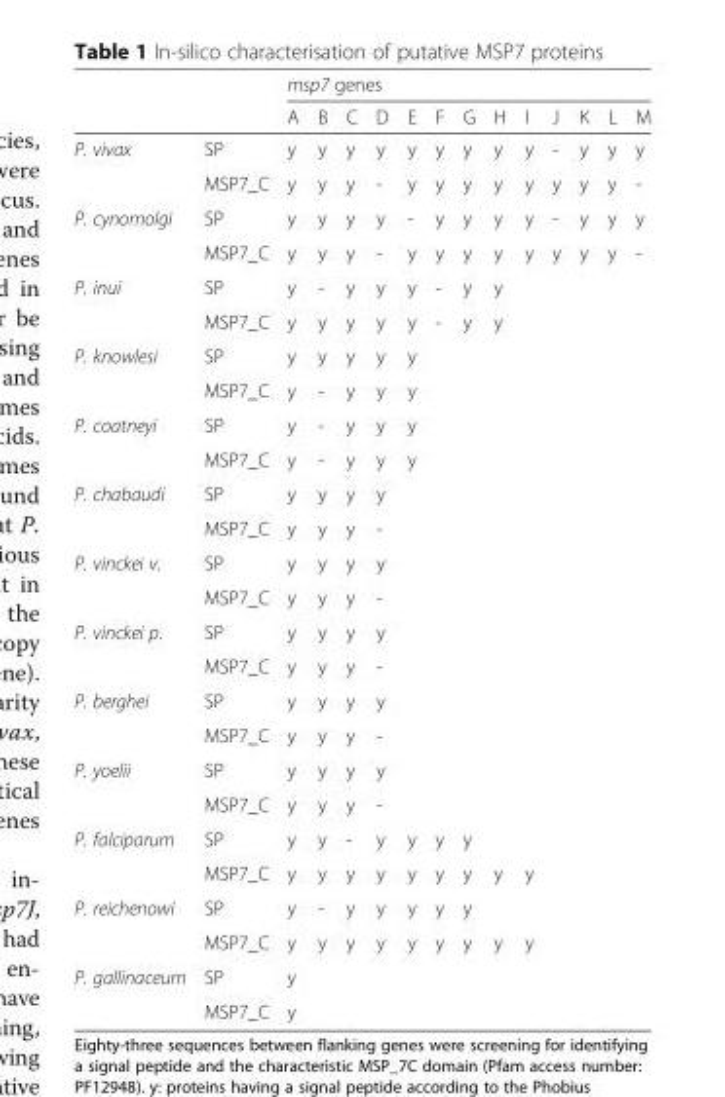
<table><thead><tr><td rowspan="2"></td><td rowspan="2"></td><td colspan="13">msp7 genes</td></tr><tr><td>A</td><td>B</td><td>C</td><td>D</td><td>E</td><td>F</td><td>G</td><td>H</td><td>I</td><td>J</td><td>K</td><td>L</td><td>M</td></tr></thead><tbody><tr><td rowspan="2">P. vivax</td><td>SP</td><td>y</td><td>y</td><td>y</td><td>y</td><td>y</td><td>y</td><td>y</td><td>y</td><td>y</td><td>-</td><td>y</td><td>y</td><td>y</td></tr><tr><td>MSP7_C</td><td>y</td><td>y</td><td>y</td><td>-</td><td>y</td><td>y</td><td>y</td><td>y</td><td>y</td><td>y</td><td>y</td><td>y</td><td>-</td></tr><tr><td rowspan="2">P. cynomolgi</td><td>SP</td><td>y</td><td>y</td><td>y</td><td>y</td><td>-</td><td>y</td><td>y</td><td>y</td><td>y</td><td>-</td><td>y</td><td>y</td><td>y</td></tr><tr><td>MSP7_C</td><td>y</td><td>y</td><td>y</td><td>-</td><td>y</td><td>y</td><td>y</td><td>y</td><td>y</td><td>y</td><td>y</td><td>y</td><td>-</td></tr><tr><td rowspan="2">P. inui</td><td>SP</td><td>y</td><td>-</td><td>y</td><td>y</td><td>y</td><td>-</td><td>y</td><td>y</td><td></td><td></td><td></td><td></td><td></td></tr><tr><td>MSP7_C</td><td>y</td><td>y</td><td>y</td><td>y</td><td>y</td><td>-</td><td>y</td><td>y</td><td></td><td></td><td></td><td></td><td></td></tr><tr><td rowspan="2">P. knowlesi</td><td>SP</td><td>y</td><td>y</td><td>y</td><td>y</td><td>y</td><td></td><td></td><td></td><td></td><td></td><td></td><td></td><td></td></tr><tr><td>MSP7_C</td><td>y</td><td>-</td><td>y</td><td>y</td><td>y</td><td></td><td></td><td></td><td></td><td></td><td></td><td></td><td></td></tr><tr><td rowspan="2">P. coatneyi</td><td>SP</td><td>y</td><td>-</td><td>y</td><td>y</td><td>y</td><td></td><td></td><td></td><td></td><td></td><td></td><td></td><td></td></tr><tr><td>MSP7_C</td><td>y</td><td>-</td><td>y</td><td>y</td><td>y</td><td></td><td></td><td></td><td></td><td></td><td></td><td></td><td></td></tr><tr><td rowspan="2">P. chabaudi</td><td>SP</td><td>y</td><td>y</td><td>y</td><td>y</td><td></td><td></td><td></td><td></td><td></td><td></td><td></td><td></td><td></td></tr><tr><td>MSP7_C</td><td>y</td><td>y</td><td>y</td><td>-</td><td></td><td></td><td></td><td></td><td></td><td></td><td></td><td></td><td></td></tr><tr><td rowspan="2">P. vinckei v.</td><td>SP</td><td>y</td><td>y</td><td>y</td><td>y</td><td></td><td></td><td></td><td></td><td></td><td></td><td></td><td></td><td></td></tr><tr><td>MSP7_C</td><td>y</td><td>y</td><td>y</td><td>-</td><td></td><td></td><td></td><td></td><td></td><td></td><td></td><td></td><td></td></tr><tr><td rowspan="2">P. vinckei p.</td><td>SP</td><td>y</td><td>y</td><td>y</td><td>y</td><td></td><td></td><td></td><td></td><td></td><td></td><td></td><td></td><td></td></tr><tr><td>MSP7_C</td><td>y</td><td>y</td><td>y</td><td>-</td><td></td><td></td><td></td><td></td><td></td><td></td><td></td><td></td><td></td></tr><tr><td rowspan="2">P. berghei</td><td>SP</td><td>y</td><td>y</td><td>y</td><td>y</td><td></td><td></td><td></td><td></td><td></td><td></td><td></td><td></td><td></td></tr><tr><td>MSP7_C</td><td>y</td><td>y</td><td>y</td><td>-</td><td></td><td></td><td></td><td></td><td></td><td></td><td></td><td></td><td></td></tr><tr><td rowspan="2">P. yoelii</td><td>SP</td><td>y</td><td>y</td><td>y</td><td>y</td><td></td><td></td><td></td><td></td><td></td><td></td><td></td><td></td><td></td></tr><tr><td>MSP7_C</td><td>y</td><td>y</td><td>y</td><td>-</td><td></td><td></td><td></td><td></td><td></td><td></td><td></td><td></td><td></td></tr><tr><td rowspan="2">P. falciparum</td><td>SP</td><td>y</td><td>y</td><td>-</td><td>y</td><td>y</td><td>y</td><td>y</td><td></td><td></td><td></td><td></td><td></td><td></td></tr><tr><td>MSP7_C</td><td>y</td><td>y</td><td>y</td><td>y</td><td>y</td><td>y</td><td>y</td><td>y</td><td>y</td><td></td><td></td><td></td><td></td></tr><tr><td rowspan="2">P. reichenowi</td><td>SP</td><td>y</td><td>-</td><td>y</td><td>y</td><td>y</td><td>y</td><td>y</td><td></td><td></td><td></td><td></td><td></td><td></td></tr><tr><td>MSP7_C</td><td>y</td><td>y</td><td>y</td><td>y</td><td>y</td><td>y</td><td>y</td><td>y</td><td>y</td><td></td><td></td><td></td><td></td></tr><tr><td rowspan="2">P. gallinaceum</td><td>SP</td><td>y</td><td></td><td></td><td></td><td></td><td></td><td></td><td></td><td></td><td></td><td></td><td></td><td></td></tr><tr><td>MSP7_C</td><td>y</td><td></td><td></td><td></td><td></td><td></td><td></td><td></td><td></td><td></td><td></td><td></td><td></td></tr></tbody></table>